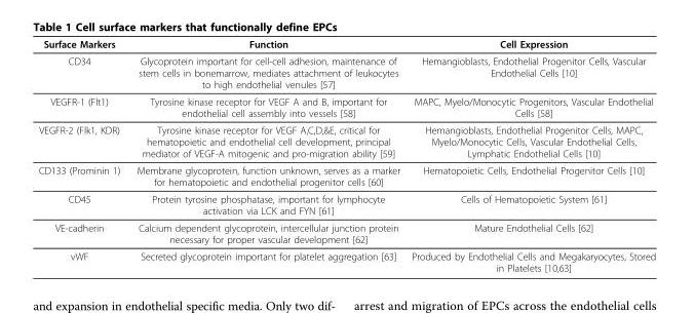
<table><thead><tr><td>Surface Markers</td><td>Function</td><td>Cell Expression</td></tr></thead><tbody><tr><td>CD34</td><td>Glycoprotein important for cell-cell adhesion, maintenance of stem cells in bonemarrow, mediates attachment of leukocytes to high endothelial venules [57]</td><td>Hemangioblasts, Endothelial Progenitor Cells, Vascular Endothelial Cells [10]</td></tr><tr><td>VEGFR-1 (Flt1)</td><td>Tyrosine kinase receptor for VEGF A and B, important for endothelial cell assembly into vessels [58]</td><td>MAPC, Myelo/Monocytic Progenitors, Vascular Endothelial Cells [58]</td></tr><tr><td>VEGFR-2 (Flk1, KDR)</td><td>Tyrosine kinase receptor for VEGF A,C,D,&amp;E, critical for hematopoietic and endothelial cell development, principal mediator of VEGF-A mitogenic and pro-migration ability [59]</td><td>Hemangioblasts, Endothelial Progenitor Cells, MAPC, Myelo/Monocytic Cells, Vascular Endothelial Cells, Lymphatic Endothelial Cells [10]</td></tr><tr><td>CD133 (Prominin 1)</td><td>Membrane glycoprotein, function unknown, serves as a marker for hematopoietic and endothelial progenitor cells [60]</td><td>Hematopoietic Cells, Endothelial Progenitor Cells [10]</td></tr><tr><td>CD45</td><td>Protein tyrosine phosphatase, important for lymphocyte activation via LCK and FYN [61]</td><td>Cells of Hematopoietic System [61]</td></tr><tr><td>VE-cadherin</td><td>Calcium dependent glycoprotein, intercellular junction protein necessary for proper vascular development [62]</td><td>Mature Endothelial Cells [62]</td></tr><tr><td>vWF</td><td>Secreted glycoprotein important for platelet aggregation [63]</td><td>Produced by Endothelial Cells and Megakaryocytes, Stored in Platelets [10,63]</td></tr></tbody></table>